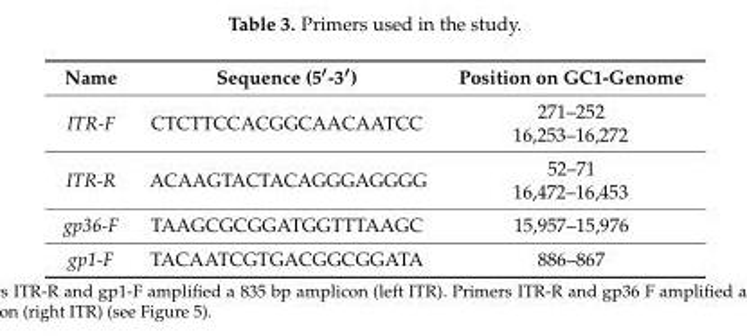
<table><thead><tr><td>Name</td><td>Sequence (5′-3′)</td><td>Position on GC1-Genome</td></tr></thead><tbody><tr><td>ITR-F</td><td>CTCTTCCACGGCAACAATCC</td><td>271–252 16,253–16,272</td></tr><tr><td>ITR-R</td><td>ACAAGTACTACAGGGAGGGG</td><td>52–71 16,472–16,453</td></tr><tr><td>gp36-F</td><td>TAAGCGCGGATGGTTTAAGC</td><td>15,957–15,976</td></tr><tr><td>gp1-F</td><td>TACAATCGTGACGGCGGATA</td><td>886–867</td></tr></tbody></table>